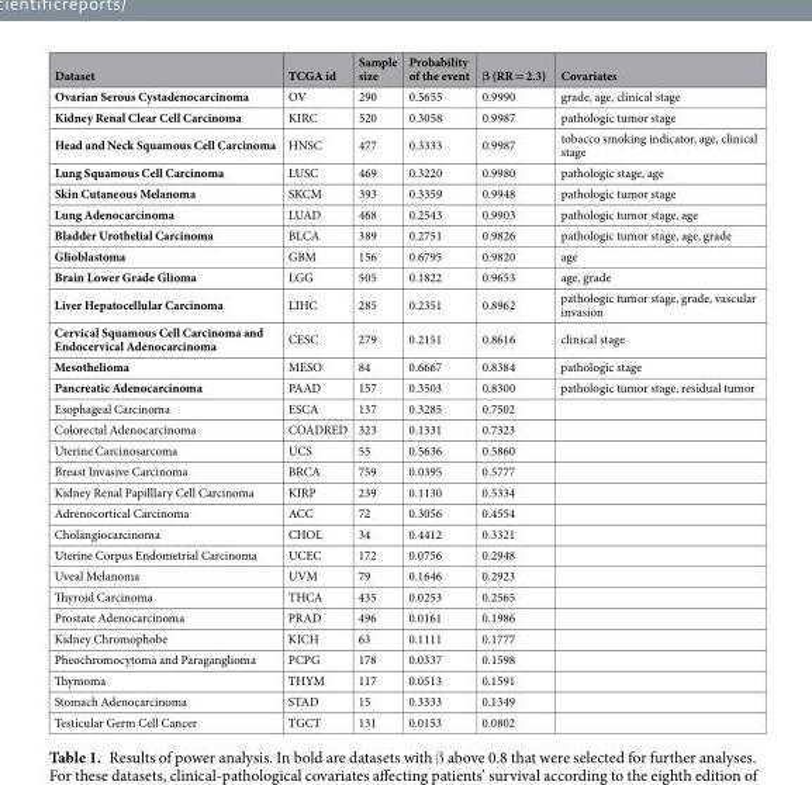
<table><thead><tr><td>Dataset</td><td>TCGA id</td><td>Sample size</td><td>Probability of the event</td><td>β (RR = 2.3)</td><td>Covariates</td></tr></thead><tbody><tr><td>Ovarian Serous Cystadenocarcinoma</td><td>OV</td><td>290</td><td>0.5655</td><td>0.9990</td><td>grade, age, clinical stage</td></tr><tr><td>Kidney Renal Clear Cell Carcinoma</td><td>KIRC</td><td>520</td><td>0.3058</td><td>0.9987</td><td>pathologic tumor stage</td></tr><tr><td>Head and Neck Squamous Cell Carcinoma</td><td>HNSC</td><td>477</td><td>0.3333</td><td>0.9987</td><td>tobacco smoking indicator, age, clinical stage</td></tr><tr><td>Lung Squamous Cell Carcinoma</td><td>LUSC</td><td>469</td><td>0.3220</td><td>0.9980</td><td>pathologic stage, age</td></tr><tr><td>Skin Cutaneous Melanoma</td><td>SKCM</td><td>393</td><td>0.3359</td><td>0.9948</td><td>pathologic tumor stage</td></tr><tr><td>Lung Adenocarcinoma</td><td>LUAD</td><td>468</td><td>0.2543</td><td>0.9903</td><td>pathologic tumor stage, age</td></tr><tr><td>Bladder Urothelial Carcinoma</td><td>BLCA</td><td>389</td><td>0.2751</td><td>0.9826</td><td>pathologic tumor stage, age, grade</td></tr><tr><td>Glioblastoma</td><td>GBM</td><td>156</td><td>0.6795</td><td>0.9820</td><td>age</td></tr><tr><td>Brain Lower Grade Glioma</td><td>LGG</td><td>505</td><td>0.1822</td><td>0.9653</td><td>age, grade</td></tr><tr><td>Liver Hepatocellular Carcinoma</td><td>LIHC</td><td>285</td><td>0.2351</td><td>0.8962</td><td>pathologic tumor stage, grade, vascular invasion</td></tr><tr><td>Cervical Squamous Cell Carcinoma and Endocervical Adenocarcinoma</td><td>CESC</td><td>279</td><td>0.2151</td><td>0.8616</td><td>clinical stage</td></tr><tr><td>Mesothelioma</td><td>MESO</td><td>84</td><td>0.6667</td><td>0.8384</td><td>pathologic stage</td></tr><tr><td>Pancreatic Adenocarcinoma</td><td>PAAD</td><td>157</td><td>0.3503</td><td>0.8300</td><td>pathologic tumor stage, residual tumor</td></tr><tr><td>Esophageal Carcinoma</td><td>ESCA</td><td>137</td><td>0.3285</td><td>0.7502</td><td></td></tr><tr><td>Colorectal Adenocarcinoma</td><td>COADRED</td><td>323</td><td>0.1331</td><td>0.7323</td><td></td></tr><tr><td>Uterine Carcinosarcoma</td><td>UCS</td><td>55</td><td>0.5636</td><td>0.5860</td><td></td></tr><tr><td>Breast Invasive Carcinoma</td><td>BRCA</td><td>759</td><td>0.0395</td><td>0.5777</td><td></td></tr><tr><td>Kidney Renal Papilllary Cell Carcinoma</td><td>KIRP</td><td>239</td><td>0.1130</td><td>0.5334</td><td></td></tr><tr><td>Adrenocortical Carcinoma</td><td>ACC</td><td>72</td><td>0.3056</td><td>0.4554</td><td></td></tr><tr><td>Cholangiocarcinoma</td><td>CHOL</td><td>34</td><td>0.4412</td><td>0.3321</td><td></td></tr><tr><td>Uterine Corpus Endometrial Carcinoma</td><td>UCEC</td><td>172</td><td>0.0756</td><td>0.2948</td><td></td></tr><tr><td>Uveal Melanoma</td><td>UVM</td><td>79</td><td>0.1646</td><td>0.2923</td><td></td></tr><tr><td>Thyroid Carcinoma</td><td>THCA</td><td>435</td><td>0.0253</td><td>0.2565</td><td></td></tr><tr><td>Prostate Adenocarcinoma</td><td>PRAD</td><td>496</td><td>0.0161</td><td>0.1986</td><td></td></tr><tr><td>Kidney Chromophobe</td><td>KICH</td><td>63</td><td>0.1111</td><td>0.1777</td><td></td></tr><tr><td>Pheochromocytoma and Paraganglioma</td><td>PCPG</td><td>178</td><td>0.0337</td><td>0.1598</td><td></td></tr><tr><td>Thymoma</td><td>THYM</td><td>117</td><td>0.0513</td><td>0.1591</td><td></td></tr><tr><td>Stomach Adenocarcinoma</td><td>STAD</td><td>15</td><td>0.3333</td><td>0.1349</td><td></td></tr><tr><td>Testicular Germ Cell Cancer</td><td>TGCT</td><td>131</td><td>0.0153</td><td>0.0802</td><td></td></tr></tbody></table>